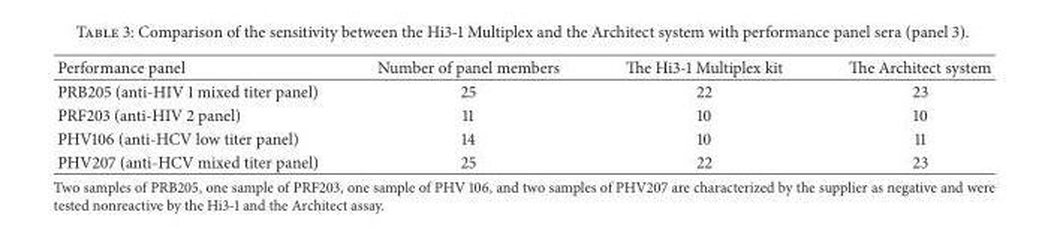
<table><thead><tr><td>Performance panel</td><td>Number of panel members</td><td>The Hi3-1 Multiplex kit</td><td>The Architect system</td></tr></thead><tbody><tr><td>PRB205 (anti-HIV 1 mixed titer panel)</td><td>25</td><td>22</td><td>23</td></tr><tr><td>PRF203 (anti-HIV 2 panel)</td><td>11</td><td>10</td><td>10</td></tr><tr><td>PHV106 (anti-HCV low titer panel)</td><td>14</td><td>10</td><td>11</td></tr><tr><td>PHV207 (anti-HCV mixed titer panel)</td><td>25</td><td>22</td><td>23</td></tr></tbody></table>